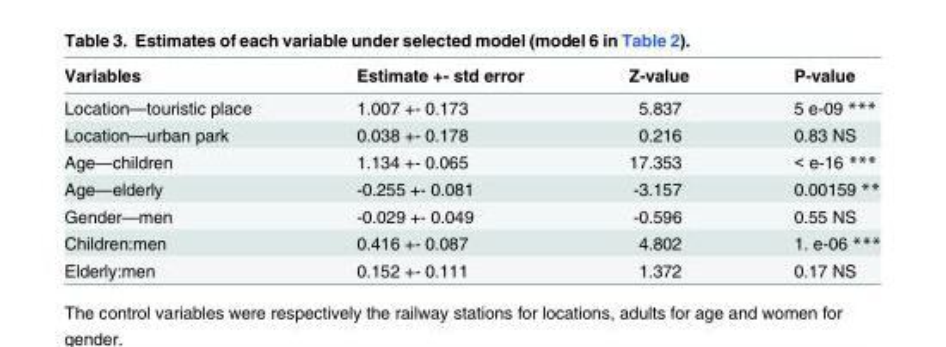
<table><thead><tr><td>Variables</td><td>Estimate +- std error</td><td>Z-value</td><td>P-value</td></tr></thead><tbody><tr><td>Location—touristic place</td><td>1.007 +- 0.173</td><td>5.837</td><td>5 e-09 ***</td></tr><tr><td>Location—urban park</td><td>0.038 +- 0.178</td><td>0.216</td><td>0.83 NS</td></tr><tr><td>Age—children</td><td>1.134 +- 0.065</td><td>17.353</td><td>&lt; e-16 ***</td></tr><tr><td>Age—elderly</td><td>-0.255 +- 0.081</td><td>-3.157</td><td>0.00159 **</td></tr><tr><td>Gender—men</td><td>-0.029 +- 0.049</td><td>-0.596</td><td>0.55 NS</td></tr><tr><td>Children:men</td><td>0.416 +- 0.087</td><td>4.802</td><td>1. e-06 ***</td></tr><tr><td>Elderly:men</td><td>0.152 +- 0.111</td><td>1.372</td><td>0.17 NS</td></tr></tbody></table>